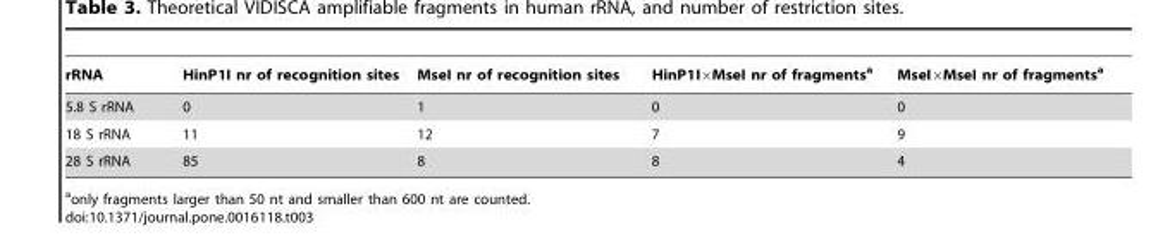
<table><thead><tr><td>rRNA</td><td>HinP1I nr of recognition sites</td><td>MseI nr of recognition sites</td><td>HinP1I×MseI nr of fragments<sup>a</sup></td><td>MseI×MseI nr of fragments<sup>a</sup></td></tr></thead><tbody><tr><td>5.8 S rRNA</td><td>0</td><td>1</td><td>0</td><td>0</td></tr><tr><td>18 S rRNA</td><td>11</td><td>12</td><td>7</td><td>9</td></tr><tr><td>28 S rRNA</td><td>85</td><td>8</td><td>8</td><td>4</td></tr></tbody></table>